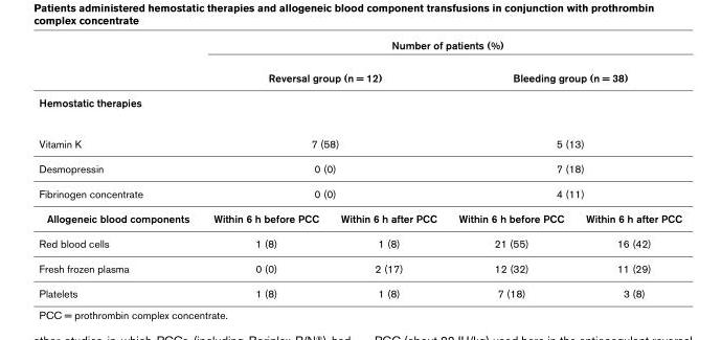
<table><thead><tr><td rowspan="3">Hemostatic therapies</td><td colspan="4">Number of patients (%)</td></tr><tr><td colspan="2">Reversal group (n = 12)</td><td colspan="2">Bleeding group (n = 38)</td></tr><tr><td></td><td></td><td></td><td></td></tr></thead><tbody><tr><td>Vitamin K</td><td colspan="2">7 (58)</td><td colspan="2">5 (13)</td></tr><tr><td>Desmopressin</td><td colspan="2">0 (0)</td><td colspan="2">7 (18)</td></tr><tr><td>Fibrinogen concentrate</td><td colspan="2">0 (0)</td><td colspan="2">4 (11)</td></tr><tr><td>Allogeneic blood components</td><td>Within 6 h before PCC</td><td>Within 6 h after PCC</td><td>Within 6 h before PCC</td><td>Within 6 h after PCC</td></tr><tr><td>Red blood cells</td><td>1 (8)</td><td>1 (8)</td><td>21 (55)</td><td>16 (42)</td></tr><tr><td>Fresh frozen plasma</td><td>0 (0)</td><td>2 (17)</td><td>12 (32)</td><td>11 (29)</td></tr><tr><td>Platelets</td><td>1 (8)</td><td>1 (8)</td><td>7 (18)</td><td>3 (8)</td></tr></tbody></table>